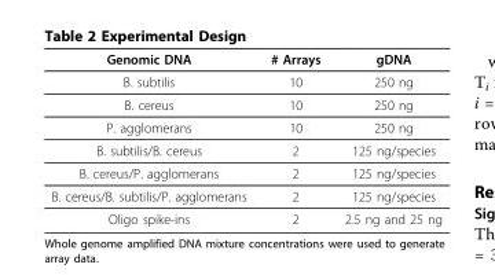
<table><thead><tr><td>Genomic DNA</td><td># Arrays</td><td>gDNA</td></tr></thead><tbody><tr><td>B. subtilis</td><td>10</td><td>250 ng</td></tr><tr><td>B. cereus</td><td>10</td><td>250 ng</td></tr><tr><td>P. agglomerans</td><td>10</td><td>250 ng</td></tr><tr><td>B. subtilis/B. cereus</td><td>2</td><td>125 ng/species</td></tr><tr><td>B. cereus/P. agglomerans</td><td>2</td><td>125 ng/species</td></tr><tr><td>B. cereus/B. subtilis/P. agglomerans</td><td>2</td><td>125 ng/species</td></tr><tr><td>Oligo spike-ins</td><td>2</td><td>2.5 ng and 25 ng</td></tr></tbody></table>